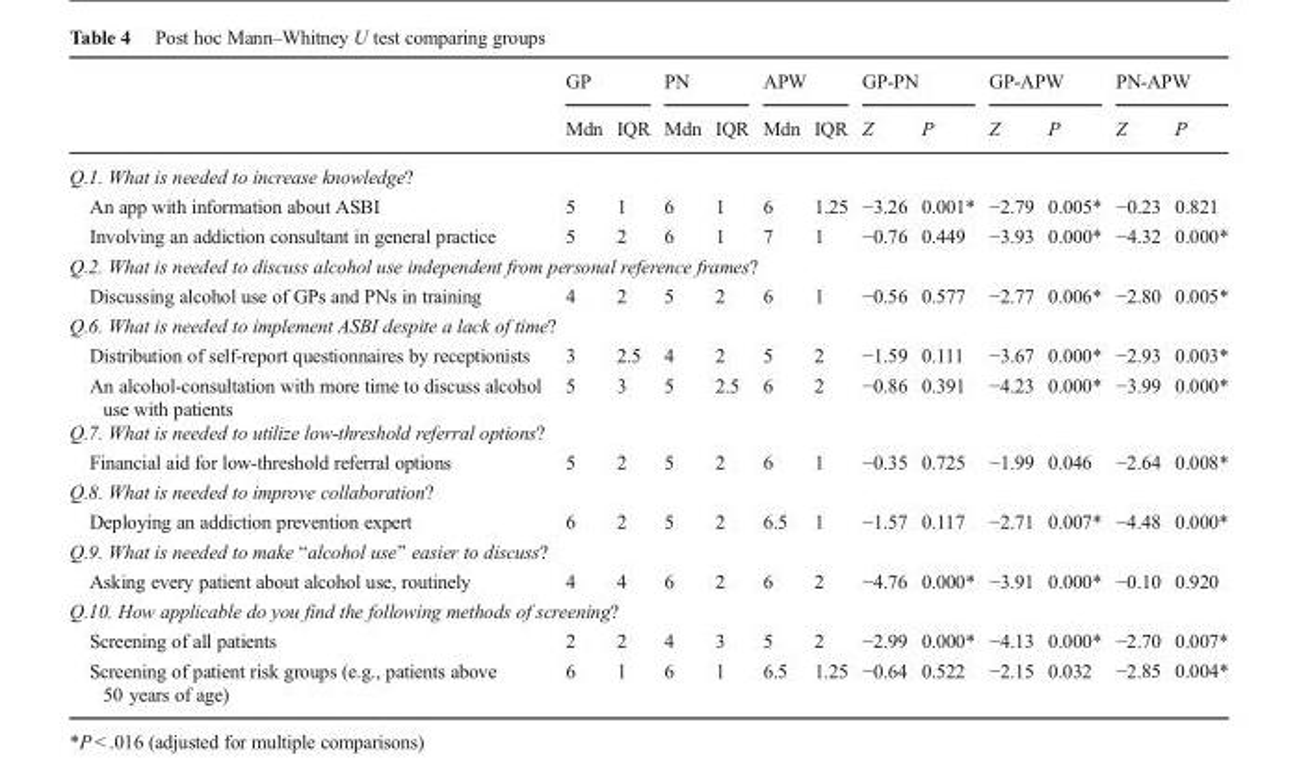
<table><thead><tr><td rowspan="2"></td><td colspan="2">GP</td><td colspan="2">PN</td><td colspan="2">APW</td><td colspan="2">GP-PN</td><td colspan="2">GP-APW</td><td colspan="2">PN-APW</td></tr><tr><td>Mdn</td><td>IQR</td><td>Mdn</td><td>IQR</td><td>Mdn</td><td>IQR</td><td>Z</td><td>P</td><td>Z</td><td>P</td><td>Z</td><td>P</td></tr></thead><tbody><tr><td colspan="13">Q.1. What is needed to increase knowledge?</td></tr><tr><td>An app with information about ASBI</td><td>5</td><td>1</td><td>6</td><td>1</td><td>6</td><td>1.25</td><td>−3.26</td><td>0.001*</td><td>−2.79</td><td>0.005*</td><td>−0.23</td><td>0.821</td></tr><tr><td>Involving an addiction consultant in general practice</td><td>5</td><td>2</td><td>6</td><td>1</td><td>7</td><td>1</td><td>−0.76</td><td>0.449</td><td>−3.93</td><td>0.000*</td><td>−4.32</td><td>0.000*</td></tr><tr><td colspan="13">Q.2. What is needed to discuss alcohol use independent from personal reference frames?</td></tr><tr><td>Discussing alcohol use of GPs and PNs in training</td><td>4</td><td>2</td><td>5</td><td>2</td><td>6</td><td>1</td><td>−0.56</td><td>0.577</td><td>−2.77</td><td>0.006*</td><td>−2.80</td><td>0.005*</td></tr><tr><td colspan="13">Q.6. What is needed to implement ASBI despite a lack of time?</td></tr><tr><td>Distribution of self-report questionnaires by receptionists</td><td>3</td><td>2.5</td><td>4</td><td>2</td><td>5</td><td>2</td><td>−1.59</td><td>0.111</td><td>−3.67</td><td>0.000*</td><td>−2.93</td><td>0.003*</td></tr><tr><td>An alcohol-consultation with more time to discuss alcohol use with patients</td><td>5</td><td>3</td><td>5</td><td>2.5</td><td>6</td><td>2</td><td>−0.86</td><td>0.391</td><td>−4.23</td><td>0.000*</td><td>−3.99</td><td>0.000*</td></tr><tr><td colspan="13">Q.7. What is needed to utilize low-threshold referral options?</td></tr><tr><td>Financial aid for low-threshold referral options</td><td>5</td><td>2</td><td>5</td><td>2</td><td>6</td><td>1</td><td>−0.35</td><td>0.725</td><td>−1.99</td><td>0.046</td><td>−2.64</td><td>0.008*</td></tr><tr><td colspan="13">Q.8. What is needed to improve collaboration?</td></tr><tr><td>Deploying an addiction prevention expert</td><td>6</td><td>2</td><td>5</td><td>2</td><td>6.5</td><td>1</td><td>−1.57</td><td>0.117</td><td>−2.71</td><td>0.007*</td><td>−4.48</td><td>0.000*</td></tr><tr><td colspan="13">Q.9. What is needed to make “alcohol use” easier to discuss?</td></tr><tr><td>Asking every patient about alcohol use, routinely</td><td>4</td><td>4</td><td>6</td><td>2</td><td>6</td><td>2</td><td>−4.76</td><td>0.000*</td><td>−3.91</td><td>0.000*</td><td>−0.10</td><td>0.920</td></tr><tr><td colspan="13">Q.10. How applicable do you find the following methods of screening?</td></tr><tr><td>Screening of all patients</td><td>2</td><td>2</td><td>4</td><td>3</td><td>5</td><td>2</td><td>−2.99</td><td>0.000*</td><td>−4.13</td><td>0.000*</td><td>−2.70</td><td>0.007*</td></tr><tr><td>Screening of patient risk groups (e.g., patients above 50 years of age)</td><td>6</td><td>1</td><td>6</td><td>1</td><td>6.5</td><td>1.25</td><td>−0.64</td><td>0.522</td><td>−2.15</td><td>0.032</td><td>−2.85</td><td>0.004*</td></tr></tbody></table>